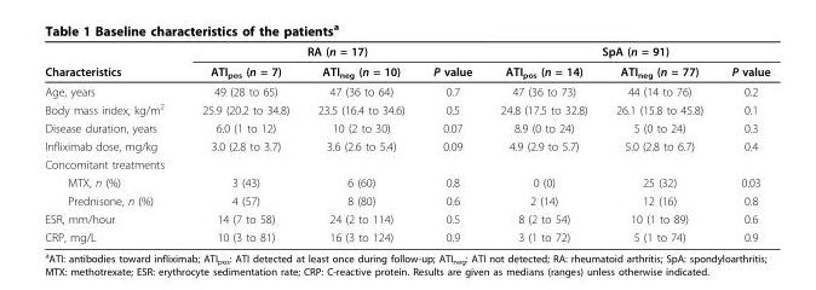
<table><thead><tr><td rowspan="2">Characteristics</td><td colspan="3">RA (n = 17)</td><td colspan="3">SpA (n = 91)</td></tr><tr><td>ATI<sub>pos</sub> (n = 7)</td><td>ATI<sub>neg</sub> (n = 10)</td><td>P value</td><td>ATI<sub>pos</sub> (n = 14)</td><td>ATI<sub>neg</sub> (n = 77)</td><td>P value</td></tr></thead><tbody><tr><td>Age, years</td><td>49 (28 to 65)</td><td>47 (36 to 64)</td><td>0.7</td><td>47 (36 to 73)</td><td>44 (14 to 76)</td><td>0.2</td></tr><tr><td>Body mass index, kg/m<sup>2</sup></td><td>25.9 (20.2 to 34.8)</td><td>23.5 (16.4 to 34.6)</td><td>0.5</td><td>24.8 (17.5 to 32.8)</td><td>26.1 (15.8 to 45.8)</td><td>0.1</td></tr><tr><td>Disease duration, years</td><td>6.0 (1 to 12)</td><td>10 (2 to 30)</td><td>0.07</td><td>8.9 (0 to 24)</td><td>5 (0 to 24)</td><td>0.3</td></tr><tr><td>Infliximab dose, mg/kg</td><td>3.0 (2.8 to 3.7)</td><td>3.6 (2.6 to 5.4)</td><td>0.09</td><td>4.9 (2.9 to 5.7)</td><td>5.0 (2.8 to 6.7)</td><td>0.4</td></tr><tr><td colspan="7">Concomitant treatments</td></tr><tr><td>MTX, n (%)</td><td>3 (43)</td><td>6 (60)</td><td>0.8</td><td>0 (0)</td><td>25 (32)</td><td>0.03</td></tr><tr><td>Prednisone, n (%)</td><td>4 (57)</td><td>8 (80)</td><td>0.6</td><td>2 (14)</td><td>12 (16)</td><td>0.8</td></tr><tr><td>ESR, mm/hour</td><td>14 (7 to 58)</td><td>24 (2 to 114)</td><td>0.5</td><td>8 (2 to 54)</td><td>10 (1 to 89)</td><td>0.6</td></tr><tr><td>CRP, mg/L</td><td>10 (3 to 81)</td><td>16 (3 to 124)</td><td>0.9</td><td>3 (1 to 72)</td><td>5 (1 to 74)</td><td>0.9</td></tr></tbody></table>